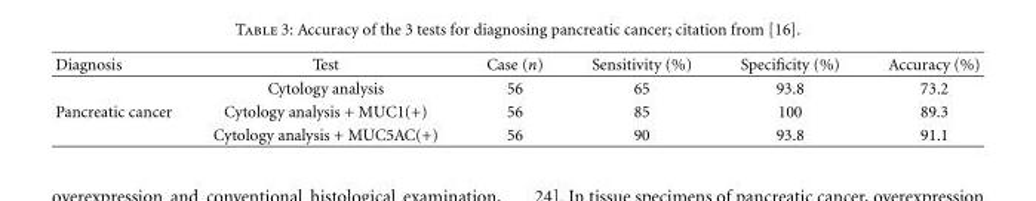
<table><thead><tr><td>Diagnosis</td><td>Test</td><td>Case (n)</td><td>Sensitivity (%)</td><td>Specificity (%)</td><td>Accuracy (%)</td></tr></thead><tbody><tr><td></td><td>Cytology analysis</td><td>56</td><td>65</td><td>93.8</td><td>73.2</td></tr><tr><td rowspan="2">Pancreatic cancer</td><td>Cytology analysis + MUC1(+)</td><td>56</td><td>85</td><td>100</td><td>89.3</td></tr><tr><td>Cytology analysis + MUC5AC(+)</td><td>56</td><td>90</td><td>93.8</td><td>91.1</td></tr></tbody></table>